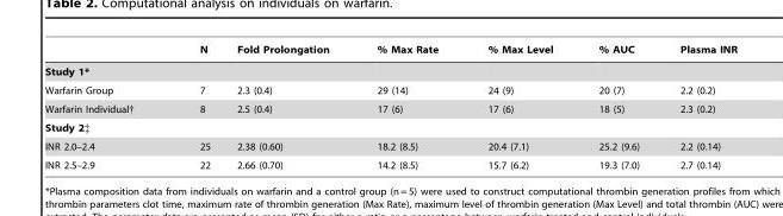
<table><thead><tr><td></td><td>N</td><td>Fold Prolongation</td><td>% Max Rate</td><td>% Max Level</td><td>% AUC</td><td>Plasma INR</td></tr></thead><tbody><tr><td colspan="7">Study 1*</td></tr><tr><td>Warfarin Group</td><td>7</td><td>2.3 (0.4)</td><td>29 (14)</td><td>24 (9)</td><td>20 (7)</td><td>2.2 (0.2)</td></tr><tr><td>Warfarin Individual†</td><td>8</td><td>2.5 (0.4)</td><td>17 (6)</td><td>17 (6)</td><td>18 (5)</td><td>2.3 (0.2)</td></tr><tr><td colspan="7">Study 2‡</td></tr><tr><td>INR 2.0–2.4</td><td>25</td><td>2.38 (0.60)</td><td>18.2 (8.5)</td><td>20.4 (7.1)</td><td>25.2 (9.6)</td><td>2.2 (0.14)</td></tr><tr><td>INR 2.5–2.9</td><td>22</td><td>2.66 (0.70)</td><td>14.2 (8.5)</td><td>15.7 (6.2)</td><td>19.3 (7.0)</td><td>2.7 (0.14)</td></tr></tbody></table>